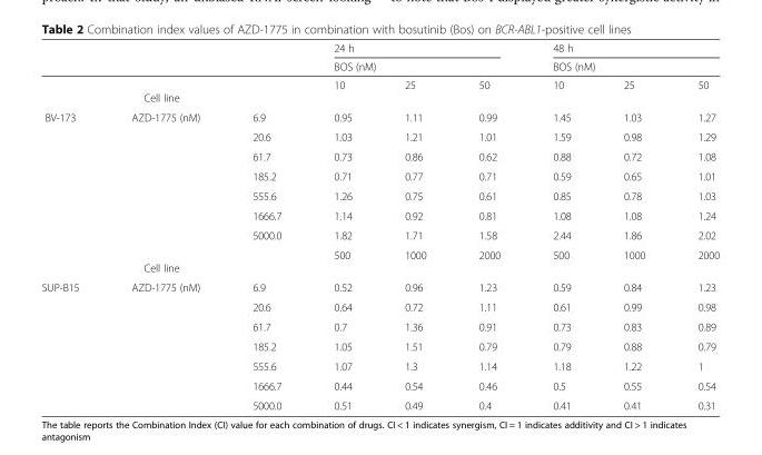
<table><thead><tr><td rowspan="2"></td><td rowspan="2"></td><td rowspan="2"></td><td rowspan="2" colspan="3">24 h BOS (nM)</td><td rowspan="2" colspan="3">48 h BOS (nM)</td></tr><tr></tr><tr><td colspan="3">Cell line</td><td>10</td><td>25</td><td>50</td><td>10</td><td>25</td><td>50</td></tr></thead><tbody><tr><td rowspan="7">BV-173</td><td rowspan="7">AZD-1775 (nM)</td><td>6.9</td><td>0.95</td><td>1.11</td><td>0.99</td><td>1.45</td><td>1.03</td><td>1.27</td></tr><tr><td>20.6</td><td>1.03</td><td>1.21</td><td>1.01</td><td>1.59</td><td>0.98</td><td>1.29</td></tr><tr><td>61.7</td><td>0.73</td><td>0.86</td><td>0.62</td><td>0.88</td><td>0.72</td><td>1.08</td></tr><tr><td>185.2</td><td>0.71</td><td>0.77</td><td>0.71</td><td>0.59</td><td>0.65</td><td>1.01</td></tr><tr><td>555.6</td><td>1.26</td><td>0.75</td><td>0.61</td><td>0.85</td><td>0.78</td><td>1.03</td></tr><tr><td>1666.7</td><td>1.14</td><td>0.92</td><td>0.81</td><td>1.08</td><td>1.08</td><td>1.24</td></tr><tr><td>5000.0</td><td>1.82</td><td>1.71</td><td>1.58</td><td>2.44</td><td>1.86</td><td>2.02</td></tr><tr><td colspan="3">Cell line</td><td>500</td><td>1000</td><td>2000</td><td>500</td><td>1000</td><td>2000</td></tr><tr><td rowspan="7">SUP-B15</td><td rowspan="7">AZD-1775 (nM)</td><td>6.9</td><td>0.52</td><td>0.96</td><td>1.23</td><td>0.59</td><td>0.84</td><td>1.23</td></tr><tr><td>20.6</td><td>0.64</td><td>0.72</td><td>1.11</td><td>0.61</td><td>0.99</td><td>0.98</td></tr><tr><td>61.7</td><td>0.7</td><td>1.36</td><td>0.91</td><td>0.73</td><td>0.83</td><td>0.89</td></tr><tr><td>185.2</td><td>1.05</td><td>1.51</td><td>0.79</td><td>0.79</td><td>0.88</td><td>0.79</td></tr><tr><td>555.6</td><td>1.07</td><td>1.3</td><td>1.14</td><td>1.18</td><td>1.22</td><td>1</td></tr><tr><td>1666.7</td><td>0.44</td><td>0.54</td><td>0.46</td><td>0.5</td><td>0.55</td><td>0.54</td></tr><tr><td>5000.0</td><td>0.51</td><td>0.49</td><td>0.4</td><td>0.41</td><td>0.41</td><td>0.31</td></tr></tbody></table>